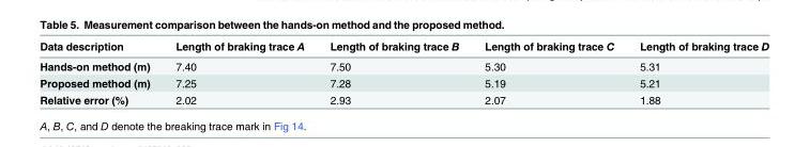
<table><thead><tr><td>Data description</td><td>Length of braking trace A</td><td>Length of braking trace B</td><td>Length of braking trace C</td><td>Length of braking trace D</td></tr></thead><tbody><tr><td>Hands-on method (m)</td><td>7.40</td><td>7.50</td><td>5.30</td><td>5.31</td></tr><tr><td>Proposed method (m)</td><td>7.25</td><td>7.28</td><td>5.19</td><td>5.21</td></tr><tr><td>Relative error (%)</td><td>2.02</td><td>2.93</td><td>2.07</td><td>1.88</td></tr></tbody></table>